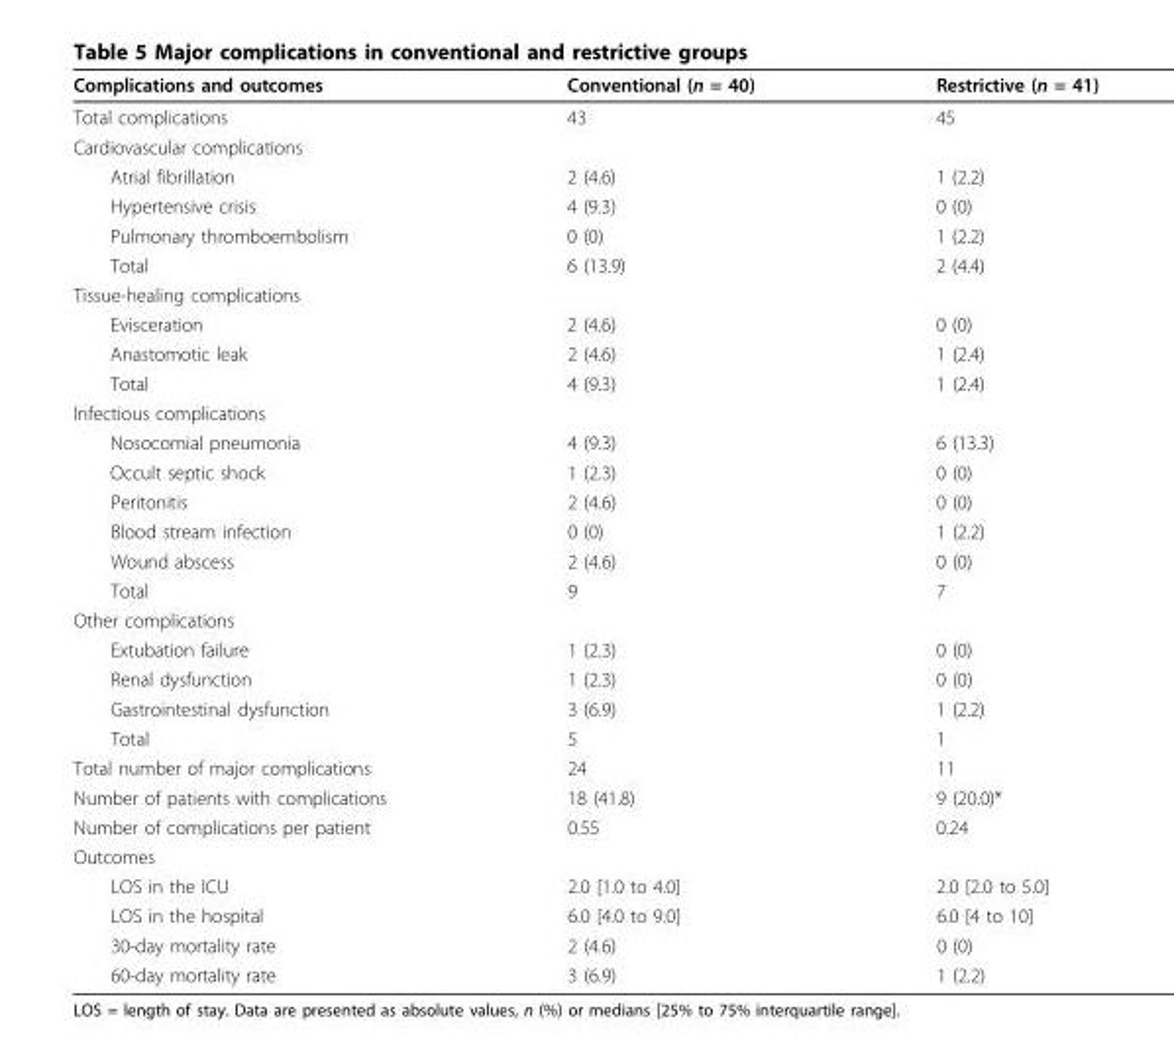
<table><thead><tr><td>Complications and outcomes</td><td>Conventional (n = 40)</td><td>Restrictive (n = 41)</td></tr></thead><tbody><tr><td>Total complications</td><td>43</td><td>45</td></tr><tr><td colspan="3">Cardiovascular complications</td></tr><tr><td>Atrial fibrillation</td><td>2 (4.6)</td><td>1 (2.2)</td></tr><tr><td>Hypertensive crisis</td><td>4 (9.3)</td><td>0 (0)</td></tr><tr><td>Pulmonary thromboembolism</td><td>0 (0)</td><td>1 (2.2)</td></tr><tr><td>Total</td><td>6 (13.9)</td><td>2 (4.4)</td></tr><tr><td colspan="3">Tissue-healing complications</td></tr><tr><td>Evisceration</td><td>2 (4.6)</td><td>0 (0)</td></tr><tr><td>Anastomotic leak</td><td>2 (4.6)</td><td>1 (2.4)</td></tr><tr><td>Total</td><td>4 (9.3)</td><td>1 (2.4)</td></tr><tr><td colspan="3">Infectious complications</td></tr><tr><td>Nosocomial pneumonia</td><td>4 (9.3)</td><td>6 (13.3)</td></tr><tr><td>Occult septic shock</td><td>1 (2.3)</td><td>0 (0)</td></tr><tr><td>Peritonitis</td><td>2 (4.6)</td><td>0 (0)</td></tr><tr><td>Blood stream infection</td><td>0 (0)</td><td>1 (2.2)</td></tr><tr><td>Wound abscess</td><td>2 (4.6)</td><td>0 (0)</td></tr><tr><td>Total</td><td>9</td><td>7</td></tr><tr><td colspan="3">Other complications</td></tr><tr><td>Extubation failure</td><td>1 (2.3)</td><td>0 (0)</td></tr><tr><td>Renal dysfunction</td><td>1 (2.3)</td><td>0 (0)</td></tr><tr><td>Gastrointestinal dysfunction</td><td>3 (6.9)</td><td>1 (2.2)</td></tr><tr><td>Total</td><td>5</td><td>1</td></tr><tr><td>Total number of major complications</td><td>24</td><td>11</td></tr><tr><td>Number of patients with complications</td><td>18 (41.8)</td><td>9 (20.0)*</td></tr><tr><td>Number of complications per patient</td><td>0.55</td><td>0.24</td></tr><tr><td colspan="3">Outcomes</td></tr><tr><td>LOS in the ICU</td><td>2.0 [1.0 to 4.0]</td><td>2.0 [2.0 to 5.0]</td></tr><tr><td>LOS in the hospital</td><td>6.0 [4.0 to 9.0]</td><td>6.0 [4 to 10]</td></tr><tr><td>30-day mortality rate</td><td>2 (4.6)</td><td>0 (0)</td></tr><tr><td>60-day mortality rate</td><td>3 (6.9)</td><td>1 (2.2)</td></tr></tbody></table>